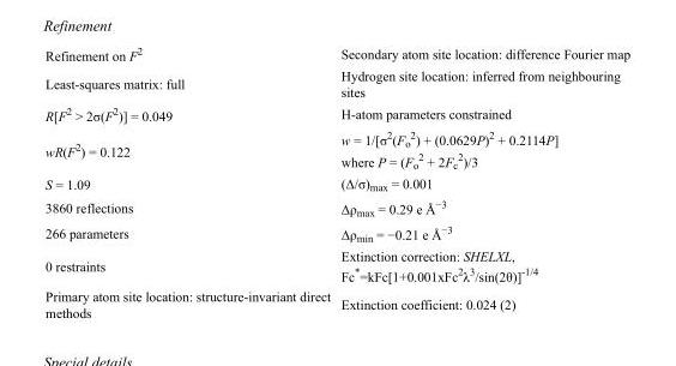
<table><tbody><tr><td>Refinement on F<sup>2</sup></td><td>Secondary atom site location: difference Fourier map</td></tr><tr><td>Least-squares matrix: full</td><td>Hydrogen site location: inferred from neighbouring sites</td></tr><tr><td>R[F<sup>2</sup> &gt; 2σ(F<sup>2</sup>)] = 0.049</td><td>H-atom parameters constrained</td></tr><tr><td>wR(F<sup>2</sup>) = 0.122</td><td>w = 1/[σ<sup>2</sup>(F<sub>o</sub> <sup>2</sup>) + (0.0629P)<sup>2</sup> + 0.2114P] where P = (F<sub>o</sub> <sup>2</sup> + 2F<sub>c</sub> <sup>2</sup>)/3</td></tr><tr><td>S = 1.09</td><td>(Δ/σ)<sub>max</sub> = 0.001</td></tr><tr><td>3860 reflections</td><td>Δρ<sub>max</sub> = 0.29 e Å<sup>−3</sup></td></tr><tr><td>266 parameters</td><td>Δρ<sub>min</sub> = −0.21 e Å<sup>−3</sup></td></tr><tr><td>0 restraints</td><td>Extinction correction: SHELXL, Fc*=kFc[1+0.001xFc<sup>2</sup>λ<sup>3</sup>/sin(2θ)]<sup>-1/4</sup></td></tr><tr><td>Primary atom site location: structure-invariant direct methods</td><td>Extinction coefficient: 0.024 (2)</td></tr></tbody></table>